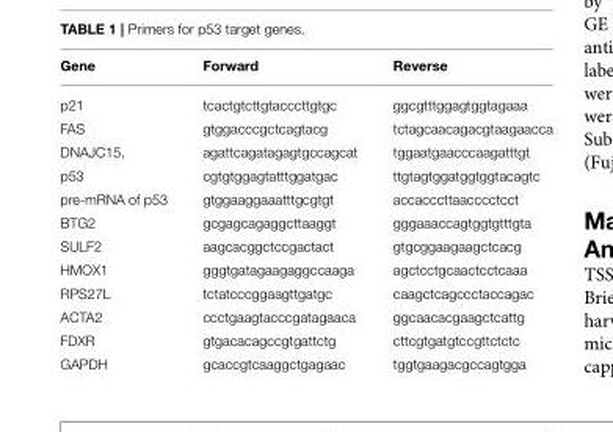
<table><thead><tr><td>Gene</td><td>Forward</td><td>Reverse</td></tr></thead><tbody><tr><td>p21</td><td>tcactgtcttgtacccttgtgc</td><td>ggcgtttggagtggtagaaa</td></tr><tr><td>FAS</td><td>gtggacccgctcagtacg</td><td>tctagcaacagacgtaagaacca</td></tr><tr><td>DNAJC15,</td><td>agattcagatagagtgccagcat</td><td>tggaatgaacccaagatttgt</td></tr><tr><td>p53</td><td>cgtgtggagtatttggatgac</td><td>ttgtagtggatggtggtacagtc</td></tr><tr><td>pre-mRNA of p53</td><td>gtggaaggaaatttgcgtgt</td><td>accacccttaacccctcct</td></tr><tr><td>BTG2</td><td>gcgagcagaggcttaaggt</td><td>gggaaaccagtggtgtttgta</td></tr><tr><td>SULF2</td><td>aagcacggctccgactact</td><td>gtgcggaagaagctcacg</td></tr><tr><td>HMOX1</td><td>gggtgatagaagaggccaaga</td><td>agctcctgcaactcctcaaa</td></tr><tr><td>RPS27L</td><td>tctatcccggaagttgatgc</td><td>caagctcagccctaccagac</td></tr><tr><td>ACTA2</td><td>ccctgaagtacccgatagaaca</td><td>ggcaacacgaagctcattg</td></tr><tr><td>FDXR</td><td>gtgacacagccgtgattctg</td><td>cttcgtgatgtccgttctctc</td></tr><tr><td>GAPDH</td><td>gcaccgtcaaggctgagaac</td><td>tggtgaagacgccagtgga</td></tr></tbody></table>